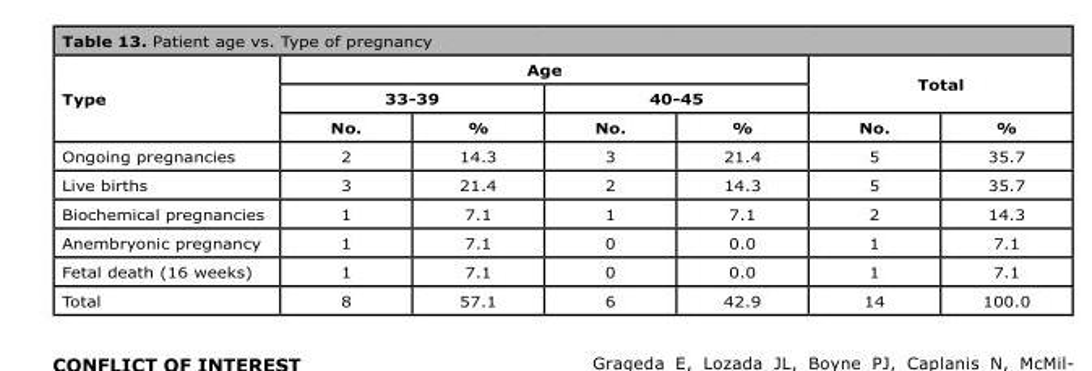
<table><thead><tr><td rowspan="3">Type</td><td colspan="4">Age</td><td rowspan="2" colspan="2">Total</td></tr><tr><td colspan="2">33-39</td><td colspan="2">40-45</td></tr><tr><td>No.</td><td>%</td><td>No.</td><td>%</td><td>No.</td><td>%</td></tr></thead><tbody><tr><td>Ongoing pregnancies</td><td>2</td><td>14.3</td><td>3</td><td>21.4</td><td>5</td><td>35.7</td></tr><tr><td>Live births</td><td>3</td><td>21.4</td><td>2</td><td>14.3</td><td>5</td><td>35.7</td></tr><tr><td>Biochemical pregnancies</td><td>1</td><td>7.1</td><td>1</td><td>7.1</td><td>2</td><td>14.3</td></tr><tr><td>Anembryonic pregnancy</td><td>1</td><td>7.1</td><td>0</td><td>0.0</td><td>1</td><td>7.1</td></tr><tr><td>Fetal death (16 weeks)</td><td>1</td><td>7.1</td><td>0</td><td>0.0</td><td>1</td><td>7.1</td></tr><tr><td>Total</td><td>8</td><td>57.1</td><td>6</td><td>42.9</td><td>14</td><td>100.0</td></tr></tbody></table>